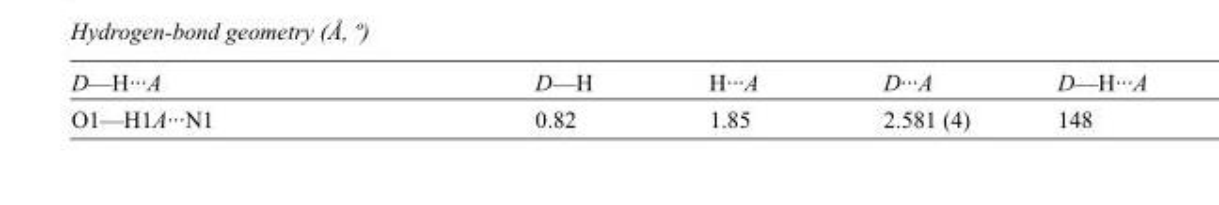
<table><tbody><tr><td>D—H···A</td><td>D—H</td><td>H···A</td><td>D···A</td><td>D—H···A</td></tr><tr><td>O1—H1A···N1</td><td>0.82</td><td>1.85</td><td>2.581 (4)</td><td>148</td></tr></tbody></table>